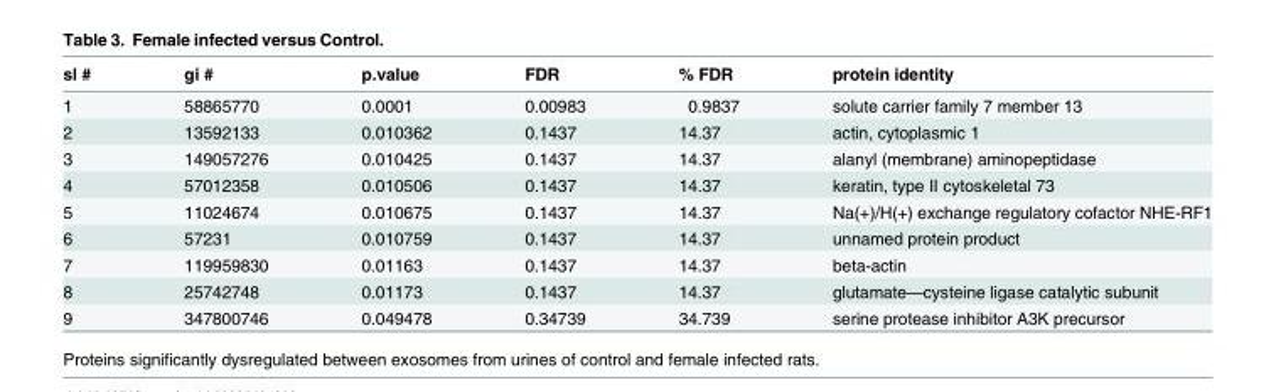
<table><thead><tr><td>sl #</td><td>gi #</td><td>p.value</td><td>FDR</td><td>% FDR</td><td>protein identity</td></tr></thead><tbody><tr><td>1</td><td>58865770</td><td>0.0001</td><td>0.00983</td><td>0.9837</td><td>solute carrier family 7 member 13</td></tr><tr><td>2</td><td>13592133</td><td>0.010362</td><td>0.1437</td><td>14.37</td><td>actin, cytoplasmic 1</td></tr><tr><td>3</td><td>149057276</td><td>0.010425</td><td>0.1437</td><td>14.37</td><td>alanyl (membrane) aminopeptidase</td></tr><tr><td>4</td><td>57012358</td><td>0.010506</td><td>0.1437</td><td>14.37</td><td>keratin, type II cytoskeletal 73</td></tr><tr><td>5</td><td>11024674</td><td>0.010675</td><td>0.1437</td><td>14.37</td><td>Na(+)/H(+) exchange regulatory cofactor NHE-RF1</td></tr><tr><td>6</td><td>57231</td><td>0.010759</td><td>0.1437</td><td>14.37</td><td>unnamed protein product</td></tr><tr><td>7</td><td>119959830</td><td>0.01163</td><td>0.1437</td><td>14.37</td><td>beta-actin</td></tr><tr><td>8</td><td>25742748</td><td>0.01173</td><td>0.1437</td><td>14.37</td><td>glutamate—cysteine ligase catalytic subunit</td></tr><tr><td>9</td><td>347800746</td><td>0.049478</td><td>0.34739</td><td>34.739</td><td>serine protease inhibitor A3K precursor</td></tr></tbody></table>